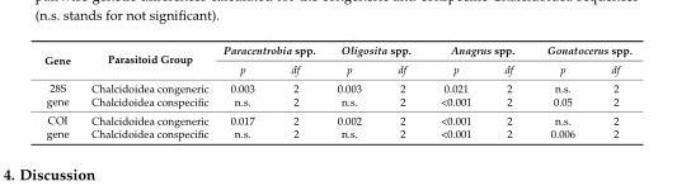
<table><tbody><tr><td rowspan="2">Gene</td><td rowspan="2">Parasitoid Group</td><td colspan="2">Paracentrobia spp.</td><td colspan="2">Oligosita spp.</td><td colspan="2">Anagrus spp.</td><td colspan="2">Gonatocerus spp.</td></tr><tr><td>p</td><td>df</td><td>p</td><td>df</td><td>p</td><td>df</td><td>p</td><td>df</td></tr><tr><td rowspan="2">28S gene</td><td>Chalcidoidea congeneric</td><td>0.003</td><td>2</td><td>0.003</td><td>2</td><td>0.021</td><td>2</td><td>n.s.</td><td>2</td></tr><tr><td>Chalcidoidea conspecific</td><td>n.s.</td><td>2</td><td>n.s.</td><td>2</td><td>&lt;0.001</td><td>2</td><td>0.05</td><td>2</td></tr><tr><td rowspan="2">COI gene</td><td>Chalcidoidea congeneric</td><td>0.017</td><td>2</td><td>0.002</td><td>2</td><td>&lt;0.001</td><td>2</td><td>n.s.</td><td>2</td></tr><tr><td>Chalcidoidea conspecific</td><td>n.s.</td><td>2</td><td>n.s.</td><td>2</td><td>&lt;0.001</td><td>2</td><td>0.006</td><td>2</td></tr></tbody></table>